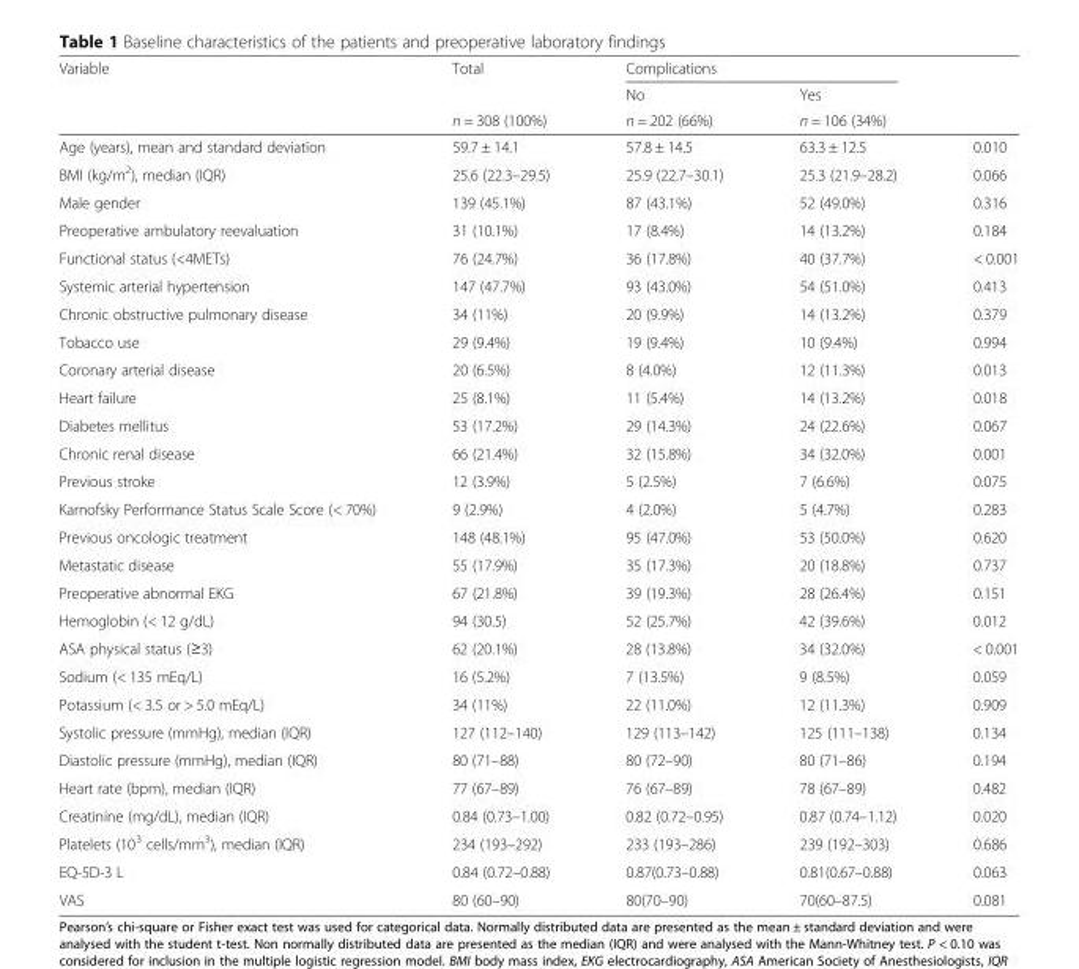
<table><thead><tr><td rowspan="3">Variable</td><td rowspan="3">Total n = 308 (100%)</td><td colspan="2">Complications</td><td rowspan="3"></td></tr><tr><td rowspan="2">No n = 202 (66%)</td><td rowspan="2">Yes n = 106 (34%)</td></tr><tr></tr></thead><tbody><tr><td>Age (years), mean and standard deviation</td><td>59.7 ± 14.1</td><td>57.8 ± 14.5</td><td>63.3 ± 12.5</td><td>0.010</td></tr><tr><td>BMI (kg/m<sup>2</sup>), median (IQR)</td><td>25.6 (22.3–29.5)</td><td>25.9 (22.7–30.1)</td><td>25.3 (21.9–28.2)</td><td>0.066</td></tr><tr><td>Male gender</td><td>139 (45.1%)</td><td>87 (43.1%)</td><td>52 (49.0%)</td><td>0.316</td></tr><tr><td>Preoperative ambulatory reevaluation</td><td>31 (10.1%)</td><td>17 (8.4%)</td><td>14 (13.2%)</td><td>0.184</td></tr><tr><td>Functional status (&lt;4METs)</td><td>76 (24.7%)</td><td>36 (17.8%)</td><td>40 (37.7%)</td><td>&lt; 0.001</td></tr><tr><td>Systemic arterial hypertension</td><td>147 (47.7%)</td><td>93 (43.0%)</td><td>54 (51.0%)</td><td>0.413</td></tr><tr><td>Chronic obstructive pulmonary disease</td><td>34 (11%)</td><td>20 (9.9%)</td><td>14 (13.2%)</td><td>0.379</td></tr><tr><td>Tobacco use</td><td>29 (9.4%)</td><td>19 (9.4%)</td><td>10 (9.4%)</td><td>0.994</td></tr><tr><td>Coronary arterial disease</td><td>20 (6.5%)</td><td>8 (4.0%)</td><td>12 (11.3%)</td><td>0.013</td></tr><tr><td>Heart failure</td><td>25 (8.1%)</td><td>11 (5.4%)</td><td>14 (13.2%)</td><td>0.018</td></tr><tr><td>Diabetes mellitus</td><td>53 (17.2%)</td><td>29 (14.3%)</td><td>24 (22.6%)</td><td>0.067</td></tr><tr><td>Chronic renal disease</td><td>66 (21.4%)</td><td>32 (15.8%)</td><td>34 (32.0%)</td><td>0.001</td></tr><tr><td>Previous stroke</td><td>12 (3.9%)</td><td>5 (2.5%)</td><td>7 (6.6%)</td><td>0.075</td></tr><tr><td>Karnofsky Performance Status Scale Score (&lt; 70%)</td><td>9 (2.9%)</td><td>4 (2.0%)</td><td>5 (4.7%)</td><td>0.283</td></tr><tr><td>Previous oncologic treatment</td><td>148 (48.1%)</td><td>95 (47.0%)</td><td>53 (50.0%)</td><td>0.620</td></tr><tr><td>Metastatic disease</td><td>55 (17.9%)</td><td>35 (17.3%)</td><td>20 (18.8%)</td><td>0.737</td></tr><tr><td>Preoperative abnormal EKG</td><td>67 (21.8%)</td><td>39 (19.3%)</td><td>28 (26.4%)</td><td>0.151</td></tr><tr><td>Hemoglobin (&lt; 12 g/dL)</td><td>94 (30.5)</td><td>52 (25.7%)</td><td>42 (39.6%)</td><td>0.012</td></tr><tr><td>ASA physical status (≥3)</td><td>62 (20.1%)</td><td>28 (13.8%)</td><td>34 (32.0%)</td><td>&lt; 0.001</td></tr><tr><td>Sodium (&lt; 135 mEq/L)</td><td>16 (5.2%)</td><td>7 (13.5%)</td><td>9 (8.5%)</td><td>0.059</td></tr><tr><td>Potassium (&lt; 3.5 or &gt; 5.0 mEq/L)</td><td>34 (11%)</td><td>22 (11.0%)</td><td>12 (11.3%)</td><td>0.909</td></tr><tr><td>Systolic pressure (mmHg), median (IQR)</td><td>127 (112–140)</td><td>129 (113–142)</td><td>125 (111–138)</td><td>0.134</td></tr><tr><td>Diastolic pressure (mmHg), median (IQR)</td><td>80 (71–88)</td><td>80 (72–90)</td><td>80 (71–86)</td><td>0.194</td></tr><tr><td>Heart rate (bpm), median (IQR)</td><td>77 (67–89)</td><td>76 (67–89)</td><td>78 (67–89)</td><td>0.482</td></tr><tr><td>Creatinine (mg/dL), median (IQR)</td><td>0.84 (0.73–1.00)</td><td>0.82 (0.72–0.95)</td><td>0.87 (0.74–1.12)</td><td>0.020</td></tr><tr><td>Platelets (10<sup>3</sup> cells/mm<sup>3</sup>), median (IQR)</td><td>234 (193–292)</td><td>233 (193–286)</td><td>239 (192–303)</td><td>0.686</td></tr><tr><td>EQ-5D-3 L</td><td>0.84 (0.72–0.88)</td><td>0.87(0.73–0.88)</td><td>0.81(0.67–0.88)</td><td>0.063</td></tr><tr><td>VAS</td><td>80 (60–90)</td><td>80(70–90)</td><td>70(60–87.5)</td><td>0.081</td></tr></tbody></table>